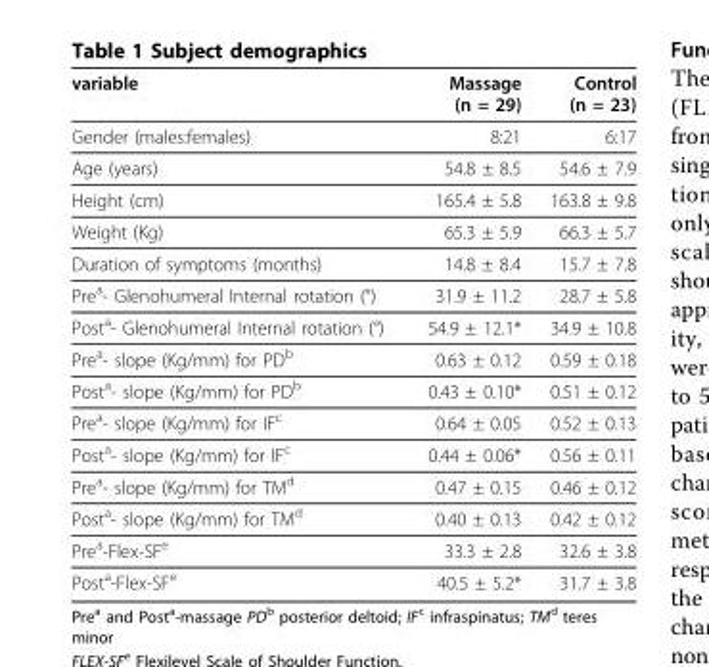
<table><thead><tr><td>variable</td><td>Massage (n = 29)</td><td>Control (n = 23)</td></tr></thead><tbody><tr><td>Gender (males:females)</td><td>8:21</td><td>6:17</td></tr><tr><td>Age (years)</td><td>54.8 ± 8.5</td><td>54.6 ± 7.9</td></tr><tr><td>Height (cm)</td><td>165.4 ± 5.8</td><td>163.8 ± 9.8</td></tr><tr><td>Weight (Kg)</td><td>65.3 ± 5.9</td><td>66.3 ± 5.7</td></tr><tr><td>Duration of symptoms (months)</td><td>14.8 ± 8.4</td><td>15.7 ± 7.8</td></tr><tr><td>Pre<sup>a</sup>- Glenohumeral Internal rotation (°)</td><td>31.9 ± 11.2</td><td>28.7 ± 5.8</td></tr><tr><td>Post<sup>a</sup>- Glenohumeral Internal rotation (°)</td><td>54.9 ± 12.1*</td><td>34.9 ± 10.8</td></tr><tr><td>Pre<sup>a</sup>- slope (Kg/mm) for PD<sup>b</sup></td><td>0.63 ± 0.12</td><td>0.59 ± 0.18</td></tr><tr><td>Post<sup>a</sup>- slope (Kg/mm) for PD<sup>b</sup></td><td>0.43 ± 0.10*</td><td>0.51 ± 0.12</td></tr><tr><td>Pre<sup>a</sup>- slope (Kg/mm) for IF<sup>c</sup></td><td>0.64 ± 0.05</td><td>0.52 ± 0.13</td></tr><tr><td>Post<sup>a</sup>- slope (Kg/mm) for IF<sup>c</sup></td><td>0.44 ± 0.06*</td><td>0.56 ± 0.11</td></tr><tr><td>Pre<sup>a</sup>- slope (Kg/mm) for TM<sup>d</sup></td><td>0.47 ± 0.15</td><td>0.46 ± 0.12</td></tr><tr><td>Post<sup>a</sup>- slope (Kg/mm) for TM<sup>d</sup></td><td>0.40 ± 0.13</td><td>0.42 ± 0.12</td></tr><tr><td>Pre<sup>a</sup>-Flex-SF<sup>e</sup></td><td>33.3 ± 2.8</td><td>32.6 ± 3.8</td></tr><tr><td>Post<sup>a</sup>-Flex-SF<sup>e</sup></td><td>40.5 ± 5.2*</td><td>31.7 ± 3.8</td></tr></tbody></table>